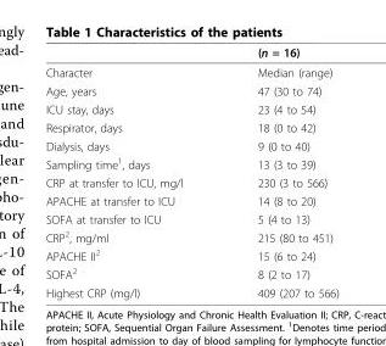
<table><thead><tr><td></td><td>(n = 16)</td></tr></thead><tbody><tr><td>Character</td><td>Median (range)</td></tr><tr><td>Age, years</td><td>47 (30 to 74)</td></tr><tr><td>ICU stay, days</td><td>23 (4 to 54)</td></tr><tr><td>Respirator, days</td><td>18 (0 to 42)</td></tr><tr><td>Dialysis, days</td><td>9 (0 to 40)</td></tr><tr><td>Sampling time<sup>1</sup>, days</td><td>13 (3 to 39)</td></tr><tr><td>CRP at transfer to ICU, mg/l</td><td>230 (3 to 566)</td></tr><tr><td>APACHE at transfer to ICU</td><td>14 (8 to 20)</td></tr><tr><td>SOFA at transfer to ICU</td><td>5 (4 to 13)</td></tr><tr><td>CRP<sup>2</sup>, mg/ml</td><td>215 (80 to 451)</td></tr><tr><td>APACHE II<sup>2</sup></td><td>15 (6 to 24)</td></tr><tr><td>SOFA<sup>2</sup></td><td>8 (2 to 17)</td></tr><tr><td>Highest CRP (mg/l)</td><td>409 (207 to 566)</td></tr></tbody></table>